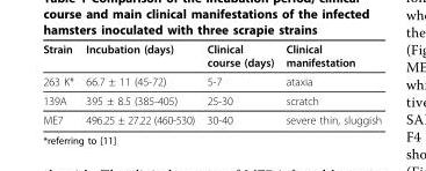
<table><thead><tr><td>Strain</td><td>Incubation (days)</td><td>Clinical course (days)</td><td>Clinical manifestation</td></tr></thead><tbody><tr><td>263 K*</td><td>66.7 ± 11 (45-72)</td><td>5-7</td><td>ataxia</td></tr><tr><td>139A</td><td>395 ± 8.5 (385-405)</td><td>25-30</td><td>scratch</td></tr><tr><td>ME7</td><td>496.25 ± 27.22 (460-530)</td><td>30-40</td><td>severe thin, sluggish</td></tr></tbody></table>